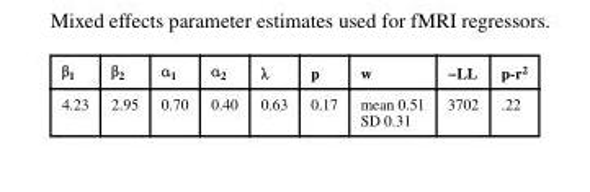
<table><thead><tr><td>β<sub>1</sub></td><td>β<sub>2</sub></td><td>α<sub>1</sub></td><td>α<sub>2</sub></td><td>λ</td><td>p</td><td>w</td><td>−LL</td><td>p-r<sup>2</sup></td></tr></thead><tbody><tr><td>4.23</td><td>2.95</td><td>0.70</td><td>0.40</td><td>0.63</td><td>0.17</td><td>mean 0.51 SD 0.31</td><td>3702</td><td>.22</td></tr></tbody></table>